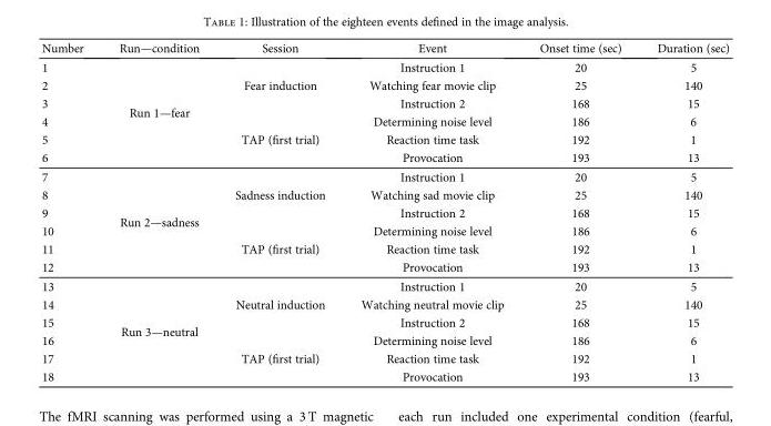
<table><thead><tr><td>Number</td><td>Run—condition</td><td>Session</td><td>Event</td><td>Onset time (sec)</td><td>Duration (sec)</td></tr></thead><tbody><tr><td>1</td><td rowspan="6">Run 1—fear</td><td rowspan="3">Fear induction</td><td>Instruction 1</td><td>20</td><td>5</td></tr><tr><td>2</td><td>Watching fear movie clip</td><td>25</td><td>140</td></tr><tr><td>3</td><td>Instruction 2</td><td>168</td><td>15</td></tr><tr><td>4</td><td rowspan="3">TAP (first trial)</td><td>Determining noise level</td><td>186</td><td>6</td></tr><tr><td>5</td><td>Reaction time task</td><td>192</td><td>1</td></tr><tr><td>6</td><td>Provocation</td><td>193</td><td>13</td></tr><tr><td>7</td><td rowspan="6">Run 2—sadness</td><td rowspan="3">Sadness induction</td><td>Instruction 1</td><td>20</td><td>5</td></tr><tr><td>8</td><td>Watching sad movie clip</td><td>25</td><td>140</td></tr><tr><td>9</td><td>Instruction 2</td><td>168</td><td>15</td></tr><tr><td>10</td><td rowspan="3">TAP (first trial)</td><td>Determining noise level</td><td>186</td><td>6</td></tr><tr><td>11</td><td>Reaction time task</td><td>192</td><td>1</td></tr><tr><td>12</td><td>Provocation</td><td>193</td><td>13</td></tr><tr><td>13</td><td rowspan="6">Run 3—neutral</td><td rowspan="3">Neutral induction</td><td>Instruction 1</td><td>20</td><td>5</td></tr><tr><td>14</td><td>Watching neutral movie clip</td><td>25</td><td>140</td></tr><tr><td>15</td><td>Instruction 2</td><td>168</td><td>15</td></tr><tr><td>16</td><td rowspan="3">TAP (first trial)</td><td>Determining noise level</td><td>186</td><td>6</td></tr><tr><td>17</td><td>Reaction time task</td><td>192</td><td>1</td></tr><tr><td>18</td><td>Provocation</td><td>193</td><td>13</td></tr></tbody></table>